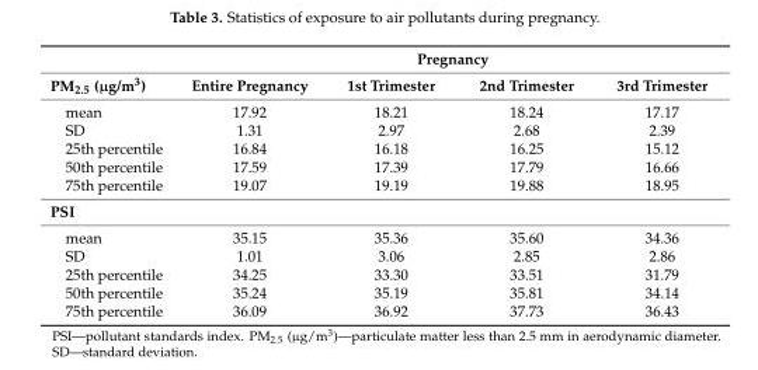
<table><thead><tr><td rowspan="2">PM<sub>2.5</sub> (µg/m<sup>3</sup>)</td><td colspan="4">Pregnancy</td></tr><tr><td>Entire Pregnancy</td><td>1st Trimester</td><td>2nd Trimester</td><td>3rd Trimester</td></tr></thead><tbody><tr><td>mean</td><td>17.92</td><td>18.21</td><td>18.24</td><td>17.17</td></tr><tr><td>SD</td><td>1.31</td><td>2.97</td><td>2.68</td><td>2.39</td></tr><tr><td>25th percentile</td><td>16.84</td><td>16.18</td><td>16.25</td><td>15.12</td></tr><tr><td>50th percentile</td><td>17.59</td><td>17.39</td><td>17.79</td><td>16.66</td></tr><tr><td>75th percentile</td><td>19.07</td><td>19.19</td><td>19.88</td><td>18.95</td></tr><tr><td colspan="5">PSI</td></tr><tr><td>mean</td><td>35.15</td><td>35.36</td><td>35.60</td><td>34.36</td></tr><tr><td>SD</td><td>1.01</td><td>3.06</td><td>2.85</td><td>2.86</td></tr><tr><td>25th percentile</td><td>34.25</td><td>33.30</td><td>33.51</td><td>31.79</td></tr><tr><td>50th percentile</td><td>35.24</td><td>35.19</td><td>35.81</td><td>34.14</td></tr><tr><td>75th percentile</td><td>36.09</td><td>36.92</td><td>37.73</td><td>36.43</td></tr></tbody></table>